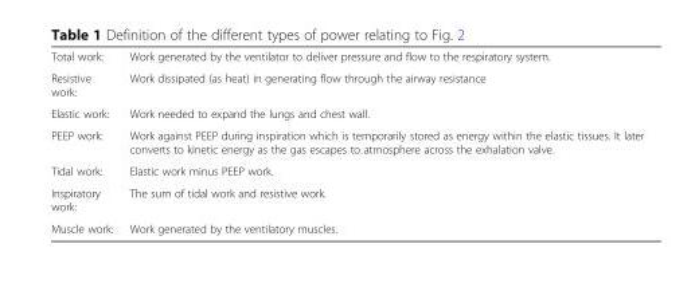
<table><tbody><tr><td>Total work:</td><td>Work generated by the ventilator to deliver pressure and flow to the respiratory system.</td></tr><tr><td>Resistive work:</td><td>Work dissipated (as heat) in generating flow through the airway resistance</td></tr><tr><td>Elastic work:</td><td>Work needed to expand the lungs and chest wall.</td></tr><tr><td>PEEP work:</td><td>Work against PEEP during inspiration which is temporarily stored as energy within the elastic tissues. It later converts to kinetic energy as the gas escapes to atmosphere across the exhalation valve.</td></tr><tr><td>Tidal work:</td><td>Elastic work minus PEEP work.</td></tr><tr><td>Inspiratory work:</td><td>The sum of tidal work and resistive work.</td></tr><tr><td>Muscle work:</td><td>Work generated by the ventilatory muscles.</td></tr></tbody></table>